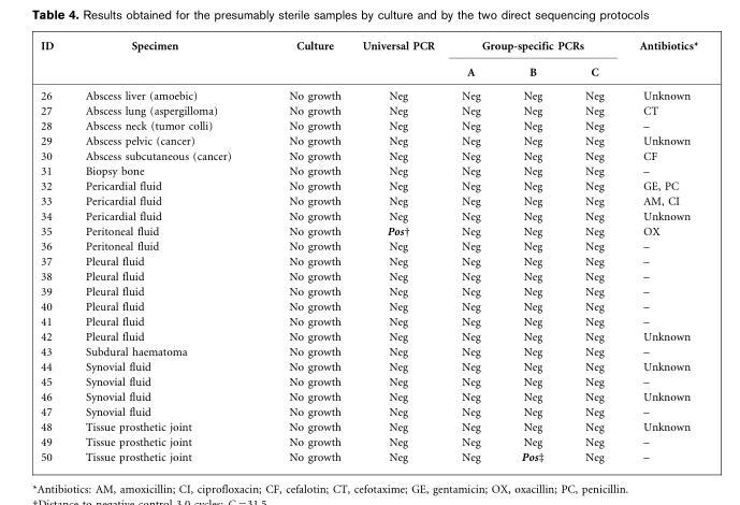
<table><thead><tr><td rowspan="2">ID</td><td rowspan="2">Specimen</td><td rowspan="2">Culture</td><td rowspan="2">Universal PCR</td><td colspan="3">Group-specific PCRs</td><td rowspan="2">Antibiotics*</td></tr><tr><td>A</td><td>B</td><td>C</td></tr></thead><tbody><tr><td>26</td><td>Abscess liver (amoebic)</td><td>No growth</td><td>Neg</td><td>Neg</td><td>Neg</td><td>Neg</td><td>Unknown</td></tr><tr><td>27</td><td>Abscess lung (aspergilloma)</td><td>No growth</td><td>Neg</td><td>Neg</td><td>Neg</td><td>Neg</td><td>CT</td></tr><tr><td>28</td><td>Abscess neck (tumor colli)</td><td>No growth</td><td>Neg</td><td>Neg</td><td>Neg</td><td>Neg</td><td>–</td></tr><tr><td>29</td><td>Abscess pelvic (cancer)</td><td>No growth</td><td>Neg</td><td>Neg</td><td>Neg</td><td>Neg</td><td>Unknown</td></tr><tr><td>30</td><td>Abscess subcutaneous (cancer)</td><td>No growth</td><td>Neg</td><td>Neg</td><td>Neg</td><td>Neg</td><td>CF</td></tr><tr><td>31</td><td>Biopsy bone</td><td>No growth</td><td>Neg</td><td>Neg</td><td>Neg</td><td>Neg</td><td>–</td></tr><tr><td>32</td><td>Pericardial fluid</td><td>No growth</td><td>Neg</td><td>Neg</td><td>Neg</td><td>Neg</td><td>GE, PC</td></tr><tr><td>33</td><td>Pericardial fluid</td><td>No growth</td><td>Neg</td><td>Neg</td><td>Neg</td><td>Neg</td><td>AM, CI</td></tr><tr><td>34</td><td>Pericardial fluid</td><td>No growth</td><td>Neg</td><td>Neg</td><td>Neg</td><td>Neg</td><td>Unknown</td></tr><tr><td>35</td><td>Peritoneal fluid</td><td>No growth</td><td>Pos†</td><td>Neg</td><td>Neg</td><td>Neg</td><td>OX</td></tr><tr><td>36</td><td>Peritoneal fluid</td><td>No growth</td><td>Neg</td><td>Neg</td><td>Neg</td><td>Neg</td><td>–</td></tr><tr><td>37</td><td>Pleural fluid</td><td>No growth</td><td>Neg</td><td>Neg</td><td>Neg</td><td>Neg</td><td>–</td></tr><tr><td>38</td><td>Pleural fluid</td><td>No growth</td><td>Neg</td><td>Neg</td><td>Neg</td><td>Neg</td><td>–</td></tr><tr><td>39</td><td>Pleural fluid</td><td>No growth</td><td>Neg</td><td>Neg</td><td>Neg</td><td>Neg</td><td>–</td></tr><tr><td>40</td><td>Pleural fluid</td><td>No growth</td><td>Neg</td><td>Neg</td><td>Neg</td><td>Neg</td><td>–</td></tr><tr><td>41</td><td>Pleural fluid</td><td>No growth</td><td>Neg</td><td>Neg</td><td>Neg</td><td>Neg</td><td>–</td></tr><tr><td>42</td><td>Pleural fluid</td><td>No growth</td><td>Neg</td><td>Neg</td><td>Neg</td><td>Neg</td><td>Unknown</td></tr><tr><td>43</td><td>Subdural haematoma</td><td>No growth</td><td>Neg</td><td>Neg</td><td>Neg</td><td>Neg</td><td>–</td></tr><tr><td>44</td><td>Synovial fluid</td><td>No growth</td><td>Neg</td><td>Neg</td><td>Neg</td><td>Neg</td><td>Unknown</td></tr><tr><td>45</td><td>Synovial fluid</td><td>No growth</td><td>Neg</td><td>Neg</td><td>Neg</td><td>Neg</td><td>–</td></tr><tr><td>46</td><td>Synovial fluid</td><td>No growth</td><td>Neg</td><td>Neg</td><td>Neg</td><td>Neg</td><td>Unknown</td></tr><tr><td>47</td><td>Synovial fluid</td><td>No growth</td><td>Neg</td><td>Neg</td><td>Neg</td><td>Neg</td><td>–</td></tr><tr><td>48</td><td>Tissue prosthetic joint</td><td>No growth</td><td>Neg</td><td>Neg</td><td>Neg</td><td>Neg</td><td>Unknown</td></tr><tr><td>49</td><td>Tissue prosthetic joint</td><td>No growth</td><td>Neg</td><td>Neg</td><td>Neg</td><td>Neg</td><td>–</td></tr><tr><td>50</td><td>Tissue prosthetic joint</td><td>No growth</td><td>Neg</td><td>Neg</td><td>Pos‡</td><td>Neg</td><td>–</td></tr></tbody></table>